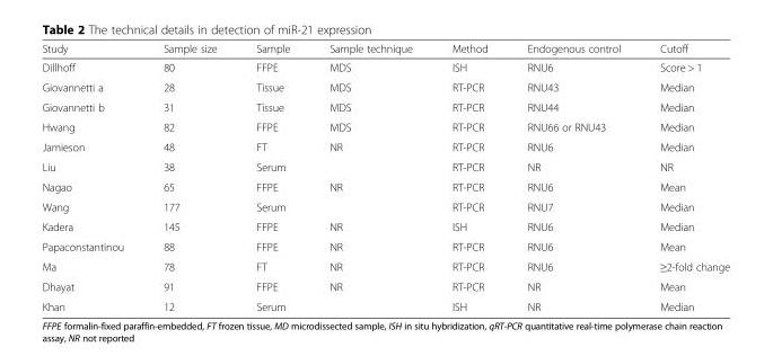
<table><thead><tr><td>Study</td><td>Sample size</td><td>Sample</td><td>Sample technique</td><td>Method</td><td>Endogenous control</td><td>Cutoff</td></tr></thead><tbody><tr><td>Dillhoff</td><td>80</td><td>FFPE</td><td>MDS</td><td>ISH</td><td>RNU6</td><td>Score &gt; 1</td></tr><tr><td>Giovannetti a</td><td>28</td><td>Tissue</td><td>MDS</td><td>RT-PCR</td><td>RNU43</td><td>Median</td></tr><tr><td>Giovannetti b</td><td>31</td><td>Tissue</td><td>MDS</td><td>RT-PCR</td><td>RNU44</td><td>Median</td></tr><tr><td>Hwang</td><td>82</td><td>FFPE</td><td>MDS</td><td>RT-PCR</td><td>RNU66 or RNU43</td><td>Median</td></tr><tr><td>Jamieson</td><td>48</td><td>FT</td><td>NR</td><td>RT-PCR</td><td>RNU6</td><td>Median</td></tr><tr><td>Liu</td><td>38</td><td>Serum</td><td></td><td>RT-PCR</td><td>NR</td><td>NR</td></tr><tr><td>Nagao</td><td>65</td><td>FFPE</td><td>NR</td><td>RT-PCR</td><td>RNU6</td><td>Mean</td></tr><tr><td>Wang</td><td>177</td><td>Serum</td><td></td><td>RT-PCR</td><td>RNU7</td><td>Median</td></tr><tr><td>Kadera</td><td>145</td><td>FFPE</td><td>NR</td><td>ISH</td><td>RNU6</td><td>Median</td></tr><tr><td>Papaconstantinou</td><td>88</td><td>FFPE</td><td>NR</td><td>RT-PCR</td><td>RNU6</td><td>Mean</td></tr><tr><td>Ma</td><td>78</td><td>FT</td><td>NR</td><td>RT-PCR</td><td>RNU6</td><td>≥2-fold change</td></tr><tr><td>Dhayat</td><td>91</td><td>FFPE</td><td>NR</td><td>RT-PCR</td><td>NR</td><td>Mean</td></tr><tr><td>Khan</td><td>12</td><td>Serum</td><td></td><td>ISH</td><td>NR</td><td>Median</td></tr></tbody></table>